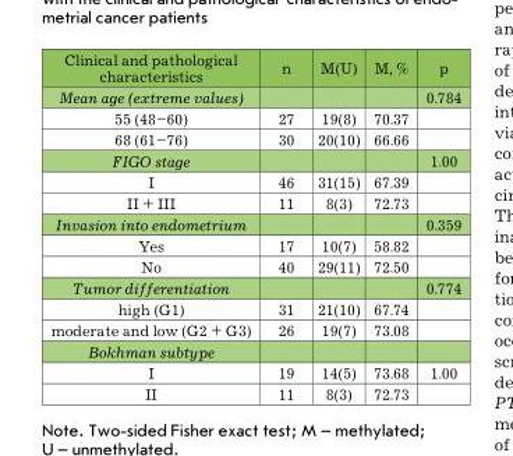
<table><thead><tr><td>Clinical and pathological characteristics</td><td>n</td><td>M(U)</td><td>M, %</td><td>p</td></tr></thead><tbody><tr><td>Mean age (extreme values)</td><td></td><td></td><td></td><td>0.784</td></tr><tr><td>55 (48–60)</td><td>27</td><td>19(8)</td><td>70.37</td><td></td></tr><tr><td>68 (61–76)</td><td>30</td><td>20(10)</td><td>66.66</td><td></td></tr><tr><td>FIGO stage</td><td></td><td></td><td></td><td>1.00</td></tr><tr><td>I</td><td>46</td><td>31(15)</td><td>67.39</td><td></td></tr><tr><td>II + III</td><td>11</td><td>8(3)</td><td>72.73</td><td></td></tr><tr><td>Invasion into endometrium</td><td></td><td></td><td></td><td>0.359</td></tr><tr><td>Yes</td><td>17</td><td>10(7)</td><td>58.82</td><td></td></tr><tr><td>No</td><td>40</td><td>29(11)</td><td>72.50</td><td></td></tr><tr><td>Tumor differentiation</td><td></td><td></td><td></td><td>0.774</td></tr><tr><td>high (G1)</td><td>31</td><td>21(10)</td><td>67.74</td><td></td></tr><tr><td>moderate and low (G2 + G3)</td><td>26</td><td>19(7)</td><td>73.08</td><td></td></tr><tr><td colspan="5">Bokhman subtype</td></tr><tr><td>I</td><td>19</td><td>14(5)</td><td>73.68</td><td>1.00</td></tr><tr><td>II</td><td>11</td><td>8(3)</td><td>72.73</td><td></td></tr></tbody></table>